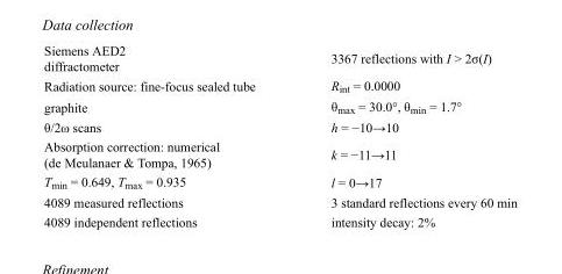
<table><tbody><tr><td>Siemens AED2 diffractometer</td><td>3367 reflections with I &gt; 2σ(I)</td></tr><tr><td>Radiation source: fine-focus sealed tube</td><td>R<sub>int</sub> = 0.0000</td></tr><tr><td>graphite</td><td>θ<sub>max</sub> = 30.0°, θ<sub>min</sub> = 1.7°</td></tr><tr><td>θ/2ω scans</td><td>h = −10→10</td></tr><tr><td>Absorption correction: numerical (de Meulanaer &amp; Tompa, 1965)</td><td>k = −11→11</td></tr><tr><td>T<sub>min</sub> = 0.649, T<sub>max</sub> = 0.935</td><td>l = 0→17</td></tr><tr><td>4089 measured reflections</td><td>3 standard reflections every 60 min</td></tr><tr><td>4089 independent reflections</td><td>intensity decay: 2%</td></tr></tbody></table>